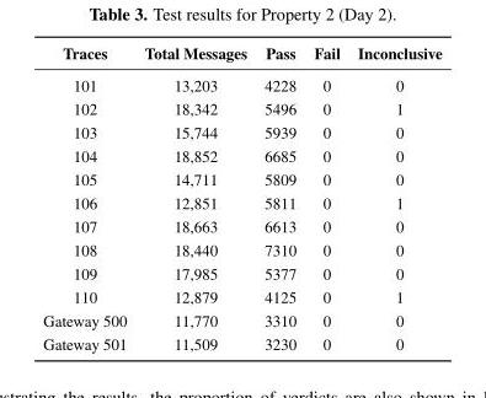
<table><thead><tr><td>Traces</td><td>Total Messages</td><td>Pass</td><td>Fail</td><td>Inconclusive</td></tr></thead><tbody><tr><td>101</td><td>13,203</td><td>4228</td><td>0</td><td>0</td></tr><tr><td>102</td><td>18,342</td><td>5496</td><td>0</td><td>1</td></tr><tr><td>103</td><td>15,744</td><td>5939</td><td>0</td><td>0</td></tr><tr><td>104</td><td>18,852</td><td>6685</td><td>0</td><td>0</td></tr><tr><td>105</td><td>14,711</td><td>5809</td><td>0</td><td>0</td></tr><tr><td>106</td><td>12,851</td><td>5811</td><td>0</td><td>1</td></tr><tr><td>107</td><td>18,663</td><td>6613</td><td>0</td><td>0</td></tr><tr><td>108</td><td>18,440</td><td>7310</td><td>0</td><td>0</td></tr><tr><td>109</td><td>17,985</td><td>5377</td><td>0</td><td>0</td></tr><tr><td>110</td><td>12,879</td><td>4125</td><td>0</td><td>1</td></tr><tr><td>Gateway 500</td><td>11,770</td><td>3310</td><td>0</td><td>0</td></tr><tr><td>Gateway 501</td><td>11,509</td><td>3230</td><td>0</td><td>0</td></tr></tbody></table>